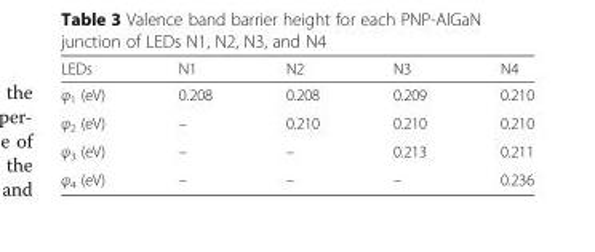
<table><thead><tr><td>LEDs</td><td>N1</td><td>N2</td><td>N3</td><td>N4</td></tr></thead><tbody><tr><td>φ<sub>1</sub> (eV)</td><td>0.208</td><td>0.208</td><td>0.209</td><td>0.210</td></tr><tr><td>φ<sub>2</sub> (eV)</td><td>–</td><td>0.210</td><td>0.210</td><td>0.210</td></tr><tr><td>φ<sub>3</sub> (eV)</td><td>–</td><td>–</td><td>0.213</td><td>0.211</td></tr><tr><td>φ<sub>4</sub> (eV)</td><td>–</td><td>–</td><td>–</td><td>0.236</td></tr></tbody></table>